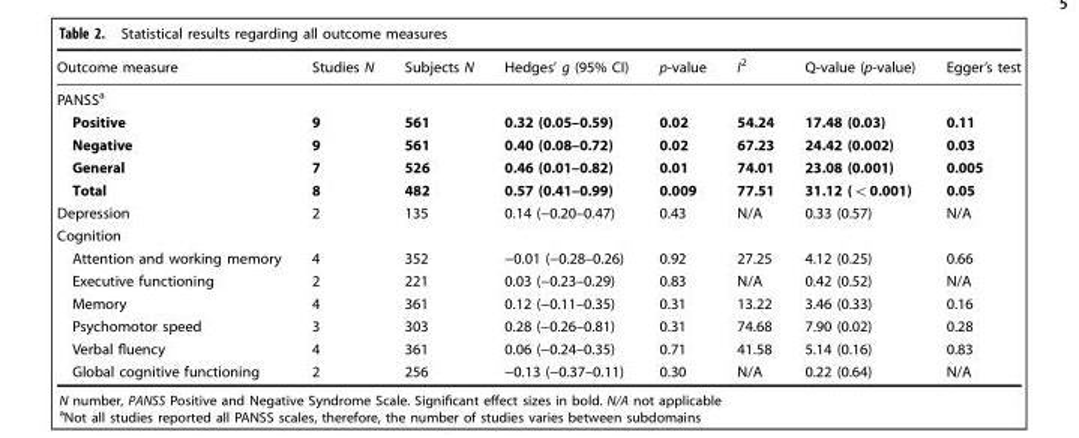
<table><thead><tr><td>Outcome measure</td><td>Studies N</td><td>Subjects N</td><td>Hedges’ g (95% CI)</td><td>p-value</td><td>I<sup>2</sup></td><td>Q-value (p-value)</td><td>Egger’s test</td></tr></thead><tbody><tr><td colspan="8">PANSS<sup>a</sup></td></tr><tr><td>Positive</td><td>9</td><td>561</td><td>0.32 (0.05–0.59)</td><td>0.02</td><td>54.24</td><td>17.48 (0.03)</td><td>0.11</td></tr><tr><td>Negative</td><td>9</td><td>561</td><td>0.40 (0.08–0.72)</td><td>0.02</td><td>67.23</td><td>24.42 (0.002)</td><td>0.03</td></tr><tr><td>General</td><td>7</td><td>526</td><td>0.46 (0.01–0.82)</td><td>0.01</td><td>74.01</td><td>23.08 (0.001)</td><td>0.005</td></tr><tr><td>Total</td><td>8</td><td>482</td><td>0.57 (0.41–0.99)</td><td>0.009</td><td>77.51</td><td>31.12 (&lt;0.001)</td><td>0.05</td></tr><tr><td>Depression</td><td>2</td><td>135</td><td>0.14 (−0.20–0.47)</td><td>0.43</td><td>N/A</td><td>0.33 (0.57)</td><td>N/A</td></tr><tr><td colspan="8">Cognition</td></tr><tr><td>Attention and working memory</td><td>4</td><td>352</td><td>−0.01 (−0.28–0.26)</td><td>0.92</td><td>27.25</td><td>4.12 (0.25)</td><td>0.66</td></tr><tr><td>Executive functioning</td><td>2</td><td>221</td><td>0.03 (−0.23–0.29)</td><td>0.83</td><td>N/A</td><td>0.42 (0.52)</td><td>N/A</td></tr><tr><td>Memory</td><td>4</td><td>361</td><td>0.12 (−0.11–0.35)</td><td>0.31</td><td>13.22</td><td>3.46 (0.33)</td><td>0.16</td></tr><tr><td>Psychomotor speed</td><td>3</td><td>303</td><td>0.28 (−0.26–0.81)</td><td>0.31</td><td>74.68</td><td>7.90 (0.02)</td><td>0.28</td></tr><tr><td>Verbal fluency</td><td>4</td><td>361</td><td>0.06 (−0.24–0.35)</td><td>0.71</td><td>41.58</td><td>5.14 (0.16)</td><td>0.83</td></tr><tr><td>Global cognitive functioning</td><td>2</td><td>256</td><td>−0.13 (−0.37–0.11)</td><td>0.30</td><td>N/A</td><td>0.22 (0.64)</td><td>N/A</td></tr></tbody></table>